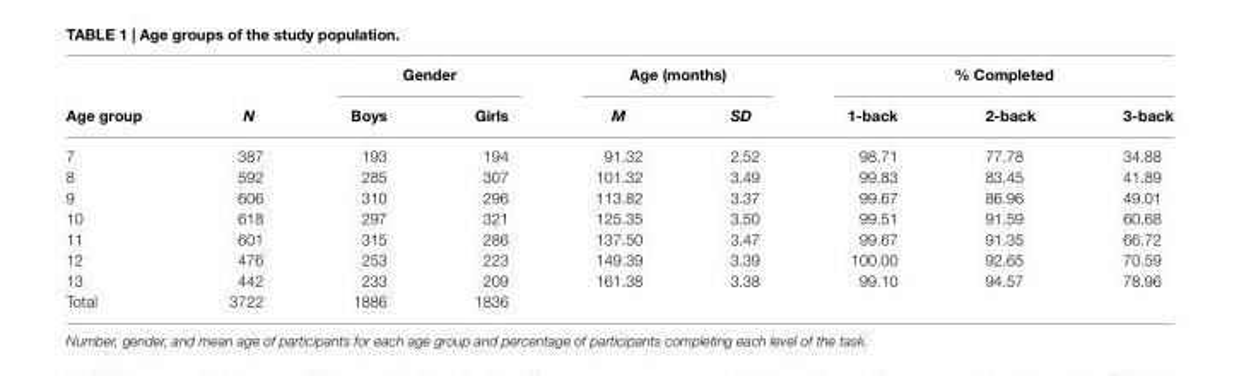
<table><thead><tr><td rowspan="2">Age group</td><td rowspan="2">N</td><td colspan="2">Gender</td><td colspan="2">Age (months)</td><td colspan="3">% Completed</td></tr><tr><td>Boys</td><td>Girls</td><td>M</td><td>SD</td><td>1-back</td><td>2-back</td><td>3-back</td></tr></thead><tbody><tr><td>7</td><td>387</td><td>193</td><td>194</td><td>91.32</td><td>2.52</td><td>98.71</td><td>77.78</td><td>34.88</td></tr><tr><td>8</td><td>592</td><td>285</td><td>307</td><td>101.32</td><td>3.49</td><td>99.83</td><td>83.45</td><td>41.89</td></tr><tr><td>9</td><td>606</td><td>310</td><td>296</td><td>113.82</td><td>3.37</td><td>99.67</td><td>86.96</td><td>49.01</td></tr><tr><td>10</td><td>618</td><td>297</td><td>321</td><td>125.35</td><td>3.50</td><td>99.51</td><td>91.59</td><td>60.68</td></tr><tr><td>11</td><td>601</td><td>315</td><td>286</td><td>137.50</td><td>3.47</td><td>99.67</td><td>91.35</td><td>66.72</td></tr><tr><td>12</td><td>476</td><td>253</td><td>223</td><td>149.39</td><td>3.39</td><td>100.00</td><td>92.65</td><td>70.59</td></tr><tr><td>13</td><td>442</td><td>233</td><td>209</td><td>161.38</td><td>3.38</td><td>99.10</td><td>94.57</td><td>78.96</td></tr><tr><td>Total</td><td>3722</td><td>1886</td><td>1836</td><td></td><td></td><td></td><td></td><td></td></tr></tbody></table>